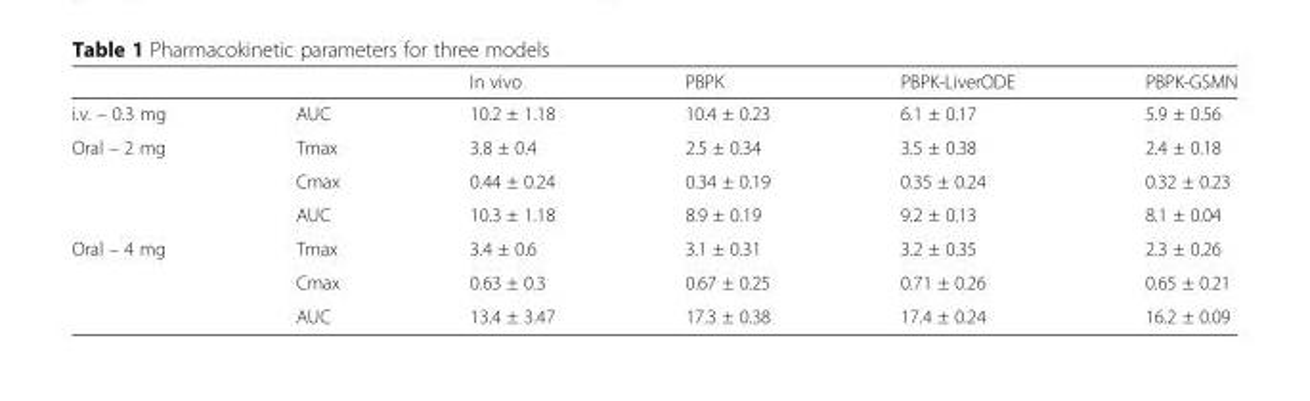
<table><thead><tr><td></td><td></td><td>In vivo</td><td>PBPK</td><td>PBPK-LiverODE</td><td>PBPK-GSMN</td></tr></thead><tbody><tr><td>i.v. – 0.3 mg</td><td>AUC</td><td>10.2 ± 1.18</td><td>10.4 ± 0.23</td><td>6.1 ± 0.17</td><td>5.9 ± 0.56</td></tr><tr><td rowspan="3">Oral – 2 mg</td><td>Tmax</td><td>3.8 ± 0.4</td><td>2.5 ± 0.34</td><td>3.5 ± 0.38</td><td>2.4 ± 0.18</td></tr><tr><td>Cmax</td><td>0.44 ± 0.24</td><td>0.34 ± 0.19</td><td>0.35 ± 0.24</td><td>0.32 ± 0.23</td></tr><tr><td>AUC</td><td>10.3 ± 1.18</td><td>8.9 ± 0.19</td><td>9.2 ± 0.13</td><td>8.1 ± 0.04</td></tr><tr><td rowspan="3">Oral – 4 mg</td><td>Tmax</td><td>3.4 ± 0.6</td><td>3.1 ± 0.31</td><td>3.2 ± 0.35</td><td>2.3 ± 0.26</td></tr><tr><td>Cmax</td><td>0.63 ± 0.3</td><td>0.67 ± 0.25</td><td>0.71 ± 0.26</td><td>0.65 ± 0.21</td></tr><tr><td>AUC</td><td>13.4 ± 3.47</td><td>17.3 ± 0.38</td><td>17.4 ± 0.24</td><td>16.2 ± 0.09</td></tr></tbody></table>